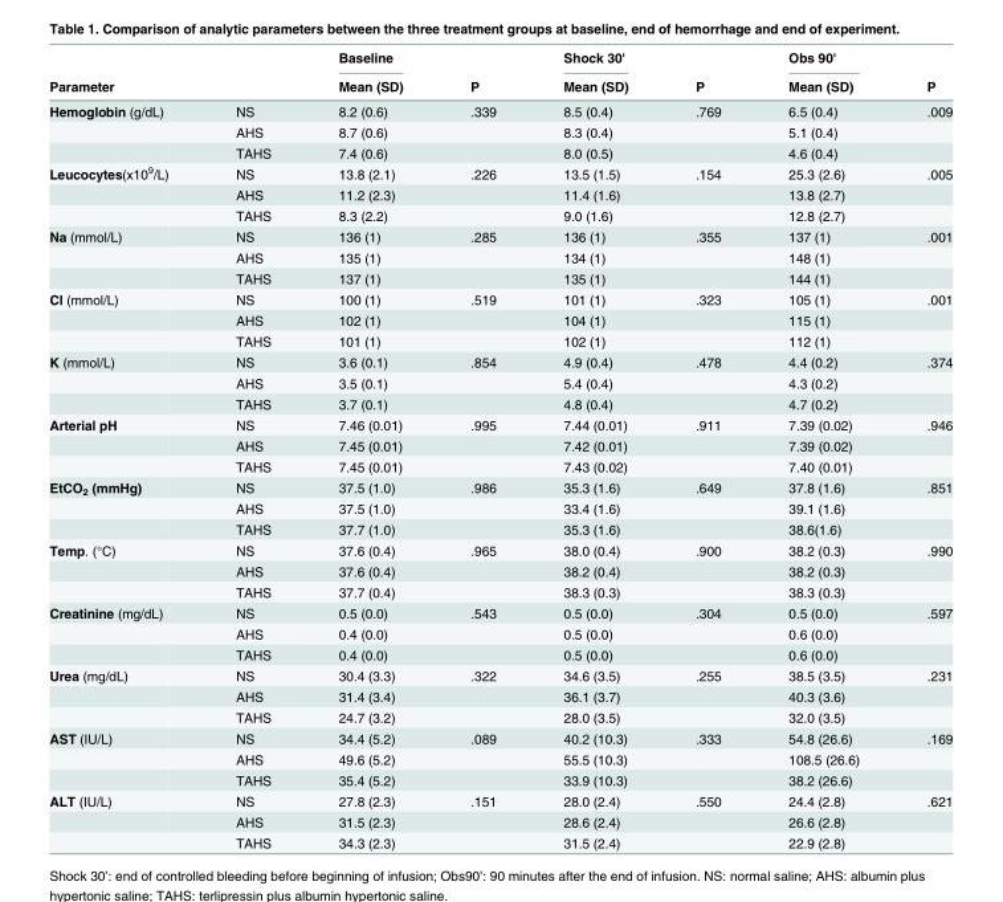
<table><thead><tr><td rowspan="2">Parameter</td><td rowspan="2"></td><td rowspan="2">Baseline Mean (SD)</td><td rowspan="2">P</td><td rowspan="2">Shock 30&#x27; Mean (SD)</td><td rowspan="2">P</td><td rowspan="2">Obs 90&#x27; Mean (SD)</td><td rowspan="2">P</td></tr><tr></tr></thead><tbody><tr><td rowspan="3">Hemoglobin (g/dL)</td><td>NS</td><td>8.2 (0.6)</td><td>.339</td><td>8.5 (0.4)</td><td>.769</td><td>6.5 (0.4)</td><td>.009</td></tr><tr><td>AHS</td><td>8.7 (0.6)</td><td></td><td>8.3 (0.4)</td><td></td><td>5.1 (0.4)</td><td></td></tr><tr><td>TAHS</td><td>7.4 (0.6)</td><td></td><td>8.0 (0.5)</td><td></td><td>4.6 (0.4)</td><td></td></tr><tr><td rowspan="3">Leucocytes(x10<sup>9</sup>/L)</td><td>NS</td><td>13.8 (2.1)</td><td>.226</td><td>13.5 (1.5)</td><td>.154</td><td>25.3 (2.6)</td><td>.005</td></tr><tr><td>AHS</td><td>11.2 (2.3)</td><td></td><td>11.4 (1.6)</td><td></td><td>13.8 (2.7)</td><td></td></tr><tr><td>TAHS</td><td>8.3 (2.2)</td><td></td><td>9.0 (1.6)</td><td></td><td>12.8 (2.7)</td><td></td></tr><tr><td rowspan="3">Na (mmol/L)</td><td>NS</td><td>136 (1)</td><td>.285</td><td>136 (1)</td><td>.355</td><td>137 (1)</td><td>.001</td></tr><tr><td>AHS</td><td>135 (1)</td><td></td><td>134 (1)</td><td></td><td>148 (1)</td><td></td></tr><tr><td>TAHS</td><td>137 (1)</td><td></td><td>135 (1)</td><td></td><td>144 (1)</td><td></td></tr><tr><td rowspan="3">Cl (mmol/L)</td><td>NS</td><td>100 (1)</td><td>.519</td><td>101 (1)</td><td>.323</td><td>105 (1)</td><td>.001</td></tr><tr><td>AHS</td><td>102 (1)</td><td></td><td>104 (1)</td><td></td><td>115 (1)</td><td></td></tr><tr><td>TAHS</td><td>101 (1)</td><td></td><td>102 (1)</td><td></td><td>112 (1)</td><td></td></tr><tr><td rowspan="3">K (mmol/L)</td><td>NS</td><td>3.6 (0.1)</td><td>.854</td><td>4.9 (0.4)</td><td>.478</td><td>4.4 (0.2)</td><td>.374</td></tr><tr><td>AHS</td><td>3.5 (0.1)</td><td></td><td>5.4 (0.4)</td><td></td><td>4.3 (0.2)</td><td></td></tr><tr><td>TAHS</td><td>3.7 (0.1)</td><td></td><td>4.8 (0.4)</td><td></td><td>4.7 (0.2)</td><td></td></tr><tr><td rowspan="3">Arterial pH</td><td>NS</td><td>7.46 (0.01)</td><td>.995</td><td>7.44 (0.01)</td><td>.911</td><td>7.39 (0.02)</td><td>.946</td></tr><tr><td>AHS</td><td>7.45 (0.01)</td><td></td><td>7.42 (0.01)</td><td></td><td>7.39 (0.02)</td><td></td></tr><tr><td>TAHS</td><td>7.45 (0.01)</td><td></td><td>7.43 (0.02)</td><td></td><td>7.40 (0.01)</td><td></td></tr><tr><td rowspan="3">EtCO<sub>2</sub> (mmHg)</td><td>NS</td><td>37.5 (1.0)</td><td>.986</td><td>35.3 (1.6)</td><td>.649</td><td>37.8 (1.6)</td><td>.851</td></tr><tr><td>AHS</td><td>37.5 (1.0)</td><td></td><td>33.4 (1.6)</td><td></td><td>39.1 (1.6)</td><td></td></tr><tr><td>TAHS</td><td>37.7 (1.0)</td><td></td><td>35.3 (1.6)</td><td></td><td>38.6(1.6)</td><td></td></tr><tr><td rowspan="3">Temp. (°C)</td><td>NS</td><td>37.6 (0.4)</td><td>.965</td><td>38.0 (0.4)</td><td>.900</td><td>38.2 (0.3)</td><td>.990</td></tr><tr><td>AHS</td><td>37.6 (0.4)</td><td></td><td>38.2 (0.4)</td><td></td><td>38.2 (0.3)</td><td></td></tr><tr><td>TAHS</td><td>37.7 (0.4)</td><td></td><td>38.3 (0.3)</td><td></td><td>38.3 (0.3)</td><td></td></tr><tr><td rowspan="3">Creatinine (mg/dL)</td><td>NS</td><td>0.5 (0.0)</td><td>.543</td><td>0.5 (0.0)</td><td>.304</td><td>0.5 (0.0)</td><td>.597</td></tr><tr><td>AHS</td><td>0.4 (0.0)</td><td></td><td>0.5 (0.0)</td><td></td><td>0.6 (0.0)</td><td></td></tr><tr><td>TAHS</td><td>0.4 (0.0)</td><td></td><td>0.5 (0.0)</td><td></td><td>0.6 (0.0)</td><td></td></tr><tr><td rowspan="3">Urea (mg/dL)</td><td>NS</td><td>30.4 (3.3)</td><td>.322</td><td>34.6 (3.5)</td><td>.255</td><td>38.5 (3.5)</td><td>.231</td></tr><tr><td>AHS</td><td>31.4 (3.4)</td><td></td><td>36.1 (3.7)</td><td></td><td>40.3 (3.6)</td><td></td></tr><tr><td>TAHS</td><td>24.7 (3.2)</td><td></td><td>28.0 (3.5)</td><td></td><td>32.0 (3.5)</td><td></td></tr><tr><td rowspan="3">AST (IU/L)</td><td>NS</td><td>34.4 (5.2)</td><td>.089</td><td>40.2 (10.3)</td><td>.333</td><td>54.8 (26.6)</td><td>.169</td></tr><tr><td>AHS</td><td>49.6 (5.2)</td><td></td><td>55.5 (10.3)</td><td></td><td>108.5 (26.6)</td><td></td></tr><tr><td>TAHS</td><td>35.4 (5.2)</td><td></td><td>33.9 (10.3)</td><td></td><td>38.2 (26.6)</td><td></td></tr><tr><td rowspan="3">ALT (IU/L)</td><td>NS</td><td>27.8 (2.3)</td><td>.151</td><td>28.0 (2.4)</td><td>.550</td><td>24.4 (2.8)</td><td>.621</td></tr><tr><td>AHS</td><td>31.5 (2.3)</td><td></td><td>28.6 (2.4)</td><td></td><td>26.6 (2.8)</td><td></td></tr><tr><td>TAHS</td><td>34.3 (2.3)</td><td></td><td>31.5 (2.4)</td><td></td><td>22.9 (2.8)</td><td></td></tr></tbody></table>